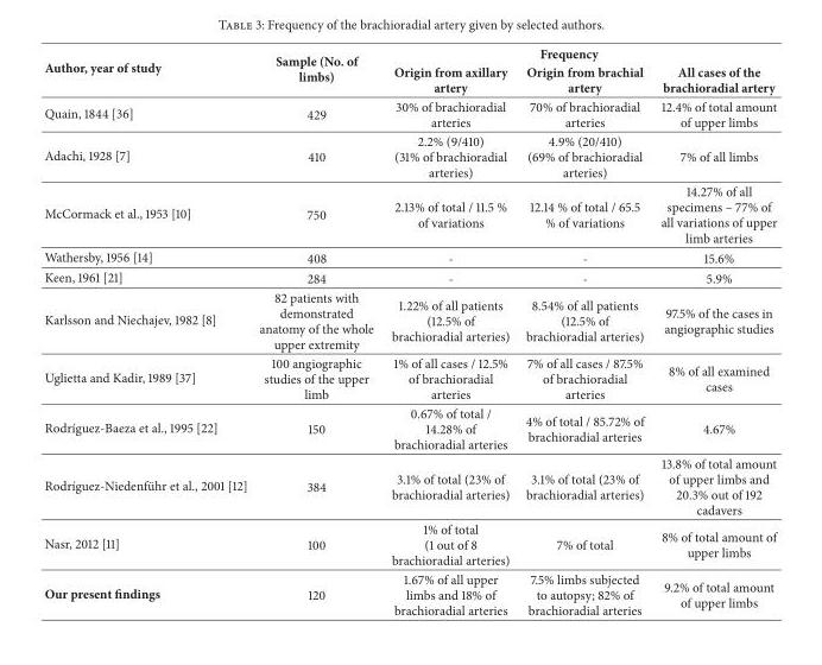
<table><thead><tr><td rowspan="2">Author, year of study</td><td rowspan="2">Sample (No. of limbs)</td><td colspan="3">Frequency</td></tr><tr><td>Origin from axillary artery</td><td>Origin from brachial artery</td><td>All cases of the brachioradial artery</td></tr></thead><tbody><tr><td>Quain, 1844 [36]</td><td>429</td><td>30% of brachioradial arteries</td><td>70% of brachioradial arteries</td><td>12.4% of total amount of upper limbs</td></tr><tr><td>Adachi, 1928 [7]</td><td>410</td><td>2.2% (9/410) (31% of brachioradial arteries)</td><td>4.9% (20/410) (69% of brachioradial arteries)</td><td>7% of all limbs</td></tr><tr><td>McCormack et al., 1953 [10]</td><td>750</td><td>2.13% of total / 11.5 % of variations</td><td>12.14 % of total / 65.5 % of variations</td><td>14.27% of all specimens – 77% of all variations of upper limb arteries</td></tr><tr><td>Wathersby, 1956 [14]</td><td>408</td><td>-</td><td>-</td><td>15.6%</td></tr><tr><td>Keen, 1961 [21]</td><td>284</td><td>-</td><td>-</td><td>5.9%</td></tr><tr><td>Karlsson and Niechajev, 1982 [8]</td><td>82 patients with demonstrated anatomy of the whole upper extremity</td><td>1.22% of all patients (12.5% of brachioradial arteries)</td><td>8.54% of all patients (12.5% of brachioradial arteries)</td><td>97.5% of the cases in angiographic studies</td></tr><tr><td>Uglietta and Kadir, 1989 [37]</td><td>100 angiographic studies of the upper limb</td><td>1% of all cases / 12.5% of brachioradial arteries</td><td>7% of all cases / 87.5% of brachioradial arteries</td><td>8% of all examined cases</td></tr><tr><td>Rodr´ıguez-Baeza et al., 1995 [22]</td><td>150</td><td>0.67% of total / 14.28% of brachioradial arteries</td><td>4% of total / 85.72% of brachioradial arteries</td><td>4.67%</td></tr><tr><td>Rodr´ıguez-Niedenf¨uhr et al., 2001 [12]</td><td>384</td><td>3.1% of total (23% of brachioradial arteries)</td><td>3.1% of total (23% of brachioradial arteries)</td><td>13.8% of total amount of upper limbs and 20.3% out of 192 cadavers</td></tr><tr><td>Nasr, 2012 [11]</td><td>100</td><td>1% of total (1 out of 8 brachioradial arteries)</td><td>7% of total</td><td>8% of total amount of upper limbs</td></tr><tr><td>Our present findings</td><td>120</td><td>1.67% of all upper limbs and 18% of brachioradial arteries</td><td>7.5% limbs subjected to autopsy; 82% of brachioradial arteries</td><td>9.2% of total amount of upper limbs</td></tr></tbody></table>